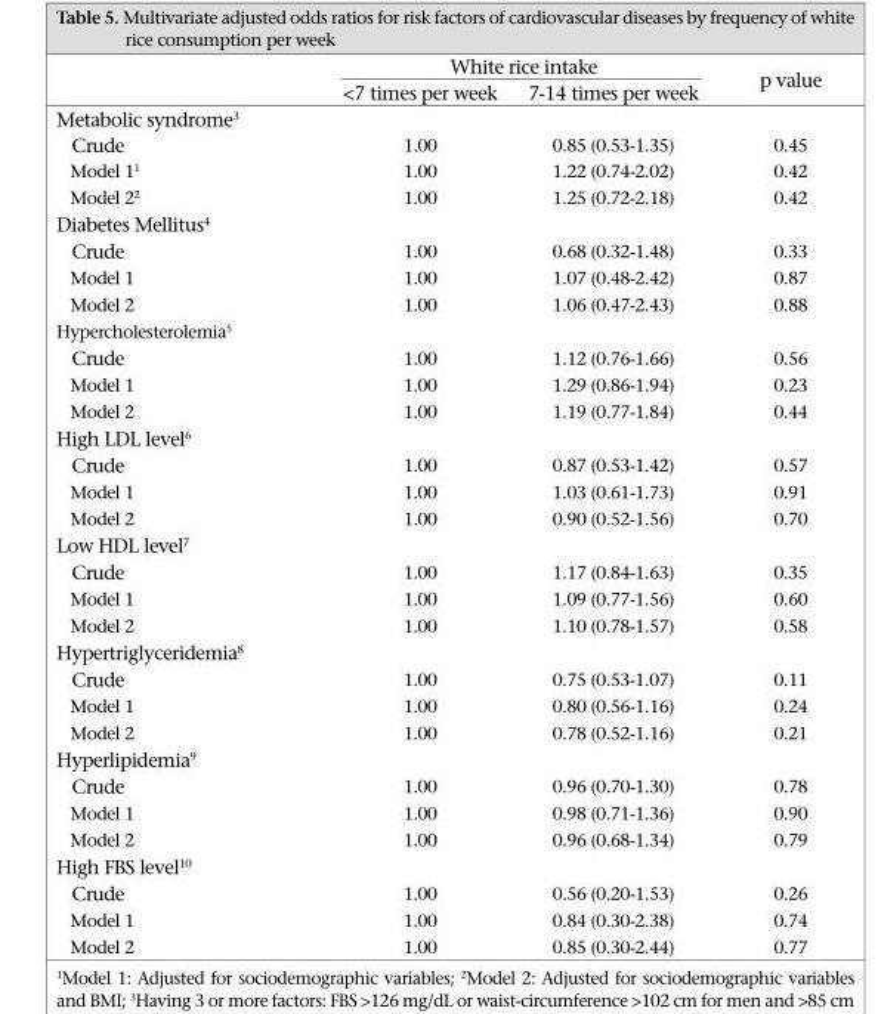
<table><thead><tr><td rowspan="2"></td><td colspan="2">White rice intake</td><td rowspan="2">p value</td></tr><tr><td>&lt;7 times per week</td><td>7-14 times per week</td></tr></thead><tbody><tr><td colspan="4">Metabolic syndrome<sup>3</sup></td></tr><tr><td>Crude</td><td>1.00</td><td>0.85 (0.53-1.35)</td><td>0.45</td></tr><tr><td>Model 1<sup>1</sup></td><td>1.00</td><td>1.22 (0.74-2.02)</td><td>0.42</td></tr><tr><td>Model 2<sup>2</sup></td><td>1.00</td><td>1.25 (0.72-2.18)</td><td>0.42</td></tr><tr><td colspan="4">Diabetes Mellitus<sup>4</sup></td></tr><tr><td>Crude</td><td>1.00</td><td>0.68 (0.32-1.48)</td><td>0.33</td></tr><tr><td>Model 1</td><td>1.00</td><td>1.07 (0.48-2.42)</td><td>0.87</td></tr><tr><td>Model 2</td><td>1.00</td><td>1.06 (0.47-2.43)</td><td>0.88</td></tr><tr><td colspan="4">Hypercholesterolemia<sup>5</sup></td></tr><tr><td>Crude</td><td>1.00</td><td>1.12 (0.76-1.66)</td><td>0.56</td></tr><tr><td>Model 1</td><td>1.00</td><td>1.29 (0.86-1.94)</td><td>0.23</td></tr><tr><td>Model 2</td><td>1.00</td><td>1.19 (0.77-1.84)</td><td>0.44</td></tr><tr><td colspan="4">High LDL level<sup>6</sup></td></tr><tr><td>Crude</td><td>1.00</td><td>0.87 (0.53-1.42)</td><td>0.57</td></tr><tr><td>Model 1</td><td>1.00</td><td>1.03 (0.61-1.73)</td><td>0.91</td></tr><tr><td>Model 2</td><td>1.00</td><td>0.90 (0.52-1.56)</td><td>0.70</td></tr><tr><td colspan="4">Low HDL level<sup>7</sup></td></tr><tr><td>Crude</td><td>1.00</td><td>1.17 (0.84-1.63)</td><td>0.35</td></tr><tr><td>Model 1</td><td>1.00</td><td>1.09 (0.77-1.56)</td><td>0.60</td></tr><tr><td>Model 2</td><td>1.00</td><td>1.10 (0.78-1.57)</td><td>0.58</td></tr><tr><td colspan="4">Hypertriglyceridemia<sup>8</sup></td></tr><tr><td>Crude</td><td>1.00</td><td>0.75 (0.53-1.07)</td><td>0.11</td></tr><tr><td>Model 1</td><td>1.00</td><td>0.80 (0.56-1.16)</td><td>0.24</td></tr><tr><td>Model 2</td><td>1.00</td><td>0.78 (0.52-1.16)</td><td>0.21</td></tr><tr><td colspan="4">Hyperlipidemia<sup>9</sup></td></tr><tr><td>Crude</td><td>1.00</td><td>0.96 (0.70-1.30)</td><td>0.78</td></tr><tr><td>Model 1</td><td>1.00</td><td>0.98 (0.71-1.36)</td><td>0.90</td></tr><tr><td>Model 2</td><td>1.00</td><td>0.96 (0.68-1.34)</td><td>0.79</td></tr><tr><td colspan="4">High FBS level<sup>10</sup></td></tr><tr><td>Crude</td><td>1.00</td><td>0.56 (0.20-1.53)</td><td>0.26</td></tr><tr><td>Model 1</td><td>1.00</td><td>0.84 (0.30-2.38)</td><td>0.74</td></tr><tr><td>Model 2</td><td>1.00</td><td>0.85 (0.30-2.44)</td><td>0.77</td></tr></tbody></table>